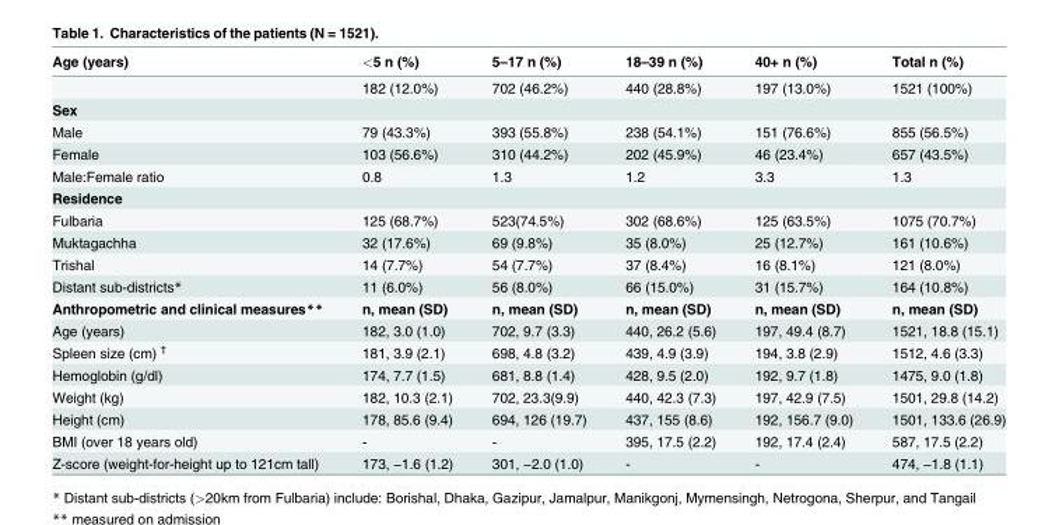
<table><thead><tr><td>Age (years)</td><td>&lt;5 n (%)</td><td>5–17 n (%)</td><td>18–39 n (%)</td><td>40+ n (%)</td><td>Total n (%)</td></tr></thead><tbody><tr><td></td><td>182 (12.0%)</td><td>702 (46.2%)</td><td>440 (28.8%)</td><td>197 (13.0%)</td><td>1521 (100%)</td></tr><tr><td colspan="6">Sex</td></tr><tr><td>Male</td><td>79 (43.3%)</td><td>393 (55.8%)</td><td>238 (54.1%)</td><td>151 (76.6%)</td><td>855 (56.5%)</td></tr><tr><td>Female</td><td>103 (56.6%)</td><td>310 (44.2%)</td><td>202 (45.9%)</td><td>46 (23.4%)</td><td>657 (43.5%)</td></tr><tr><td>Male:Female ratio</td><td>0.8</td><td>1.3</td><td>1.2</td><td>3.3</td><td>1.3</td></tr><tr><td colspan="6">Residence</td></tr><tr><td>Fulbaria</td><td>125 (68.7%)</td><td>523(74.5%)</td><td>302 (68.6%)</td><td>125 (63.5%)</td><td>1075 (70.7%)</td></tr><tr><td>Muktagachha</td><td>32 (17.6%)</td><td>69 (9.8%)</td><td>35 (8.0%)</td><td>25 (12.7%)</td><td>161 (10.6%)</td></tr><tr><td>Trishal</td><td>14 (7.7%)</td><td>54 (7.7%)</td><td>37 (8.4%)</td><td>16 (8.1%)</td><td>121 (8.0%)</td></tr><tr><td>Distant sub-districts*</td><td>11 (6.0%)</td><td>56 (8.0%)</td><td>66 (15.0%)</td><td>31 (15.7%)</td><td>164 (10.8%)</td></tr><tr><td>Anthropometric and clinical measures**</td><td>n, mean (SD)</td><td>n, mean (SD)</td><td>n, mean (SD)</td><td>n, mean (SD)</td><td>n, mean (SD)</td></tr><tr><td>Age (years)</td><td>182, 3.0 (1.0)</td><td>702, 9.7 (3.3)</td><td>440, 26.2 (5.6)</td><td>197, 49.4 (8.7)</td><td>1521, 18.8 (15.1)</td></tr><tr><td>Spleen size (cm) <sup>†</sup></td><td>181, 3.9 (2.1)</td><td>698, 4.8 (3.2)</td><td>439, 4.9 (3.9)</td><td>194, 3.8 (2.9)</td><td>1512, 4.6 (3.3)</td></tr><tr><td>Hemoglobin (g/dl)</td><td>174, 7.7 (1.5)</td><td>681, 8.8 (1.4)</td><td>428, 9.5 (2.0)</td><td>192, 9.7 (1.8)</td><td>1475, 9.0 (1.8)</td></tr><tr><td>Weight (kg)</td><td>182, 10.3 (2.1)</td><td>702, 23.3(9.9)</td><td>440, 42.3 (7.3)</td><td>197, 42.9 (7.5)</td><td>1501, 29.8 (14.2)</td></tr><tr><td>Height (cm)</td><td>178, 85.6 (9.4)</td><td>694, 126 (19.7)</td><td>437, 155 (8.6)</td><td>192, 156.7 (9.0)</td><td>1501, 133.6 (26.9)</td></tr><tr><td>BMI (over 18 years old)</td><td>-</td><td>-</td><td>395, 17.5 (2.2)</td><td>192, 17.4 (2.4)</td><td>587, 17.5 (2.2)</td></tr><tr><td>Z-score (weight-for-height up to 121cm tall)</td><td>173, −1.6 (1.2)</td><td>301, −2.0 (1.0)</td><td>-</td><td>-</td><td>474, −1.8 (1.1)</td></tr></tbody></table>